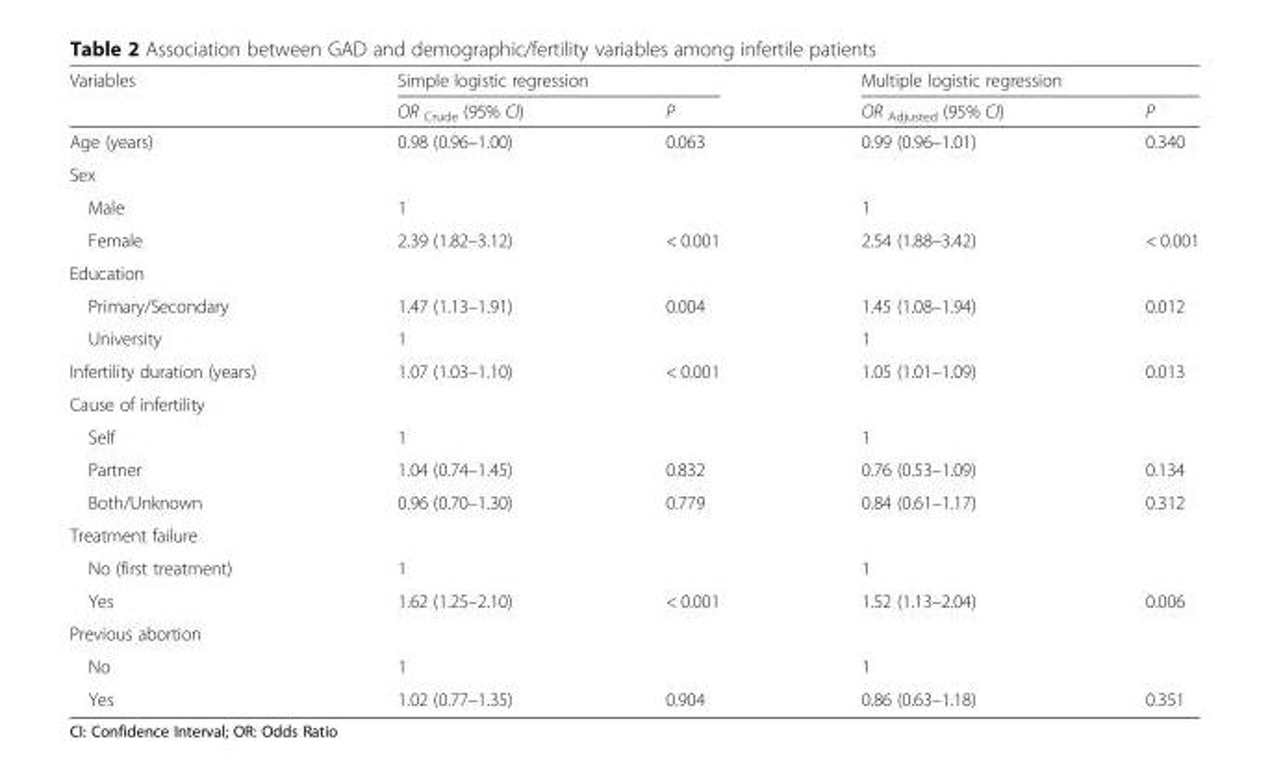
<table><thead><tr><td rowspan="2">Variables</td><td colspan="2">Simple logistic regression</td><td colspan="2">Multiple logistic regression</td></tr><tr><td>OR <sub>Crude</sub> (95% CI)</td><td>P</td><td>OR <sub>Adjusted</sub> (95% CI)</td><td>P</td></tr></thead><tbody><tr><td>Age (years)</td><td>0.98 (0.96–1.00)</td><td>0.063</td><td>0.99 (0.96–1.01)</td><td>0.340</td></tr><tr><td colspan="5">Sex</td></tr><tr><td>Male</td><td>1</td><td></td><td>1</td><td></td></tr><tr><td>Female</td><td>2.39 (1.82–3.12)</td><td>&lt; 0.001</td><td>2.54 (1.88–3.42)</td><td>&lt; 0.001</td></tr><tr><td colspan="5">Education</td></tr><tr><td>Primary/Secondary</td><td>1.47 (1.13–1.91)</td><td>0.004</td><td>1.45 (1.08–1.94)</td><td>0.012</td></tr><tr><td>University</td><td>1</td><td></td><td>1</td><td></td></tr><tr><td>Infertility duration (years)</td><td>1.07 (1.03–1.10)</td><td>&lt; 0.001</td><td>1.05 (1.01–1.09)</td><td>0.013</td></tr><tr><td colspan="5">Cause of infertility</td></tr><tr><td>Self</td><td>1</td><td></td><td>1</td><td></td></tr><tr><td>Partner</td><td>1.04 (0.74–1.45)</td><td>0.832</td><td>0.76 (0.53–1.09)</td><td>0.134</td></tr><tr><td>Both/Unknown</td><td>0.96 (0.70–1.30)</td><td>0.779</td><td>0.84 (0.61–1.17)</td><td>0.312</td></tr><tr><td colspan="5">Treatment failure</td></tr><tr><td>No (first treatment)</td><td>1</td><td></td><td>1</td><td></td></tr><tr><td>Yes</td><td>1.62 (1.25–2.10)</td><td>&lt; 0.001</td><td>1.52 (1.13–2.04)</td><td>0.006</td></tr><tr><td colspan="5">Previous abortion</td></tr><tr><td>No</td><td>1</td><td></td><td>1</td><td></td></tr><tr><td>Yes</td><td>1.02 (0.77–1.35)</td><td>0.904</td><td>0.86 (0.63–1.18)</td><td>0.351</td></tr></tbody></table>